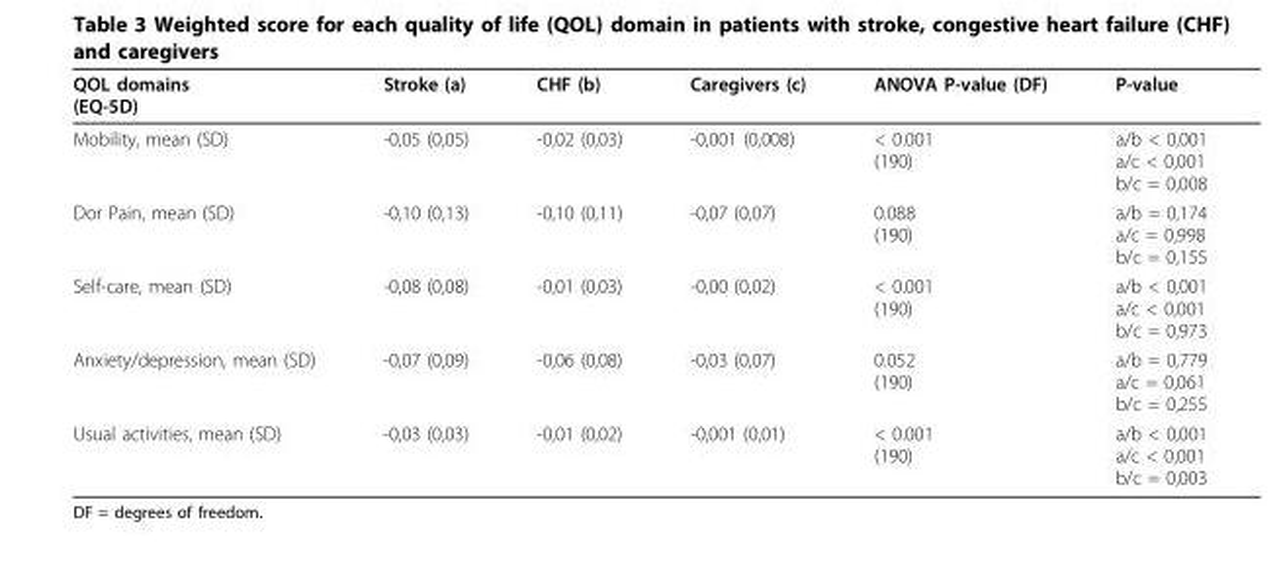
<table><thead><tr><td>QOL domains (EQ-5D)</td><td>Stroke (a)</td><td>CHF (b)</td><td>Caregivers (c)</td><td>ANOVA P-value (DF)</td><td>P-value</td></tr></thead><tbody><tr><td>Mobility, mean (SD)</td><td>-0,05 (0,05)</td><td>-0,02 (0,03)</td><td>-0,001 (0,008)</td><td>&lt; 0.001 (190)</td><td>a/b &lt; 0,001 a/c &lt; 0,001 b/c = 0,008</td></tr><tr><td>Dor Pain, mean (SD)</td><td>-0,10 (0,13)</td><td>-0,10 (0,11)</td><td>-0,07 (0,07)</td><td>0.088 (190)</td><td>a/b = 0,174 a/c = 0,998 b/c = 0,155</td></tr><tr><td>Self-care, mean (SD)</td><td>-0,08 (0,08)</td><td>-0,01 (0,03)</td><td>-0,00 (0,02)</td><td>&lt; 0.001 (190)</td><td>a/b &lt; 0,001 a/c &lt; 0,001 b/c = 0,973</td></tr><tr><td>Anxiety/depression, mean (SD)</td><td>-0,07 (0,09)</td><td>-0,06 (0,08)</td><td>-0,03 (0,07)</td><td>0.052 (190)</td><td>a/b = 0,779 a/c = 0,061 b/c = 0,255</td></tr><tr><td>Usual activities, mean (SD)</td><td>-0,03 (0,03)</td><td>-0,01 (0,02)</td><td>-0,001 (0,01)</td><td>&lt; 0.001 (190)</td><td>a/b &lt; 0,001 a/c &lt; 0,001 b/c = 0,003</td></tr></tbody></table>